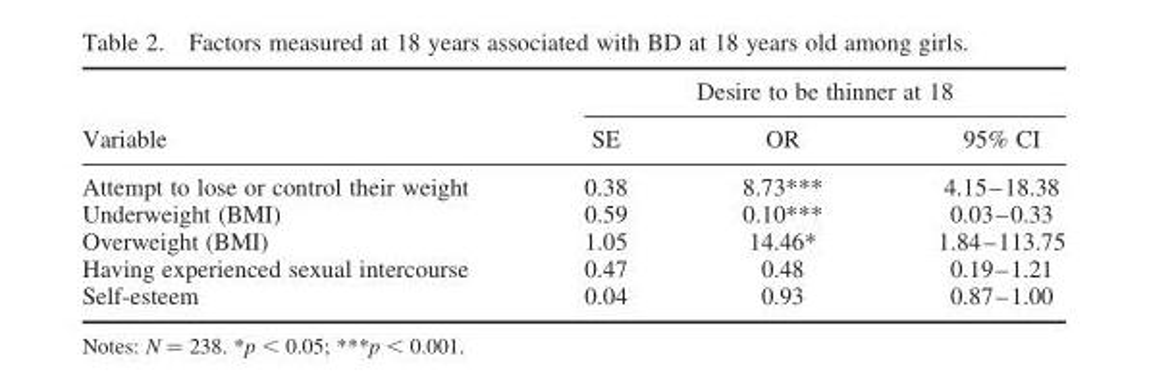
<table><thead><tr><td rowspan="2">Variable</td><td colspan="3">Desire to be thinner at 18</td></tr><tr><td>SE</td><td>OR</td><td>95% CI</td></tr></thead><tbody><tr><td>Attempt to lose or control their weight</td><td>0.38</td><td>8.73***</td><td>4.15–18.38</td></tr><tr><td>Underweight (BMI)</td><td>0.59</td><td>0.10***</td><td>0.03–0.33</td></tr><tr><td>Overweight (BMI)</td><td>1.05</td><td>14.46*</td><td>1.84–113.75</td></tr><tr><td>Having experienced sexual intercourse</td><td>0.47</td><td>0.48</td><td>0.19–1.21</td></tr><tr><td>Self-esteem</td><td>0.04</td><td>0.93</td><td>0.87–1.00</td></tr></tbody></table>